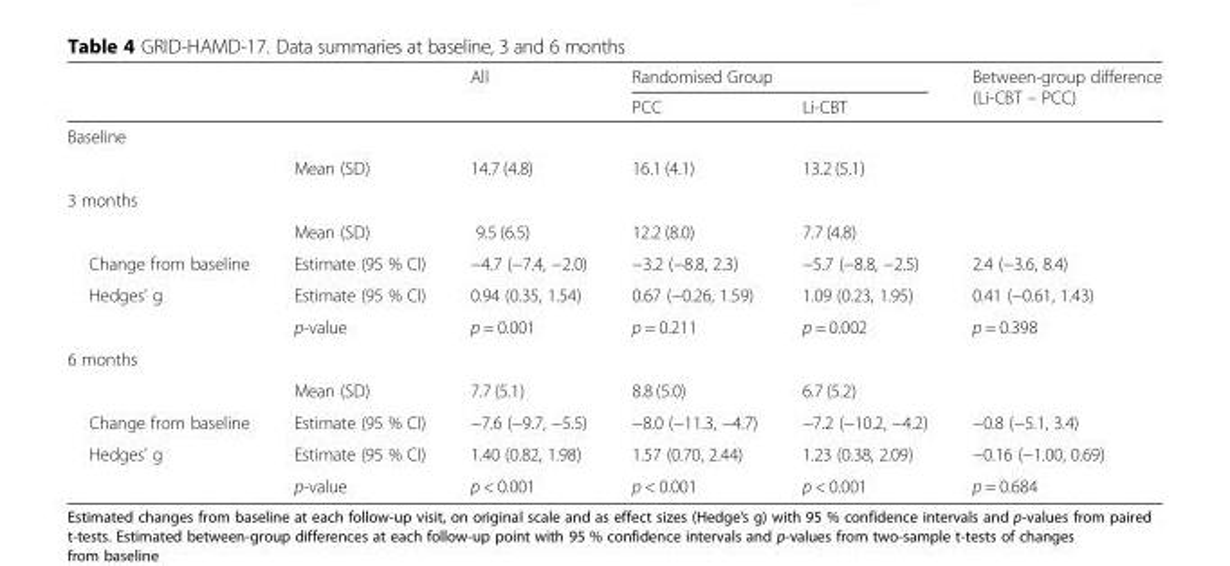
<table><thead><tr><td rowspan="2"></td><td rowspan="2"></td><td rowspan="2">All</td><td colspan="2">Randomised Group</td><td rowspan="2">Between-group difference (Li-CBT – PCC)</td></tr><tr><td>PCC</td><td>Li-CBT</td></tr></thead><tbody><tr><td colspan="6">Baseline</td></tr><tr><td></td><td>Mean (SD)</td><td>14.7 (4.8)</td><td>16.1 (4.1)</td><td>13.2 (5.1)</td><td></td></tr><tr><td colspan="6">3 months</td></tr><tr><td></td><td>Mean (SD)</td><td>9.5 (6.5)</td><td>12.2 (8.0)</td><td>7.7 (4.8)</td><td></td></tr><tr><td>Change from baseline</td><td>Estimate (95 % CI)</td><td>−4.7 (−7.4, −2.0)</td><td>−3.2 (−8.8, 2.3)</td><td>−5.7 (−8.8, −2.5)</td><td>2.4 (−3.6, 8.4)</td></tr><tr><td rowspan="2">Hedges&#x27; g</td><td>Estimate (95 % CI)</td><td>0.94 (0.35, 1.54)</td><td>0.67 (−0.26, 1.59)</td><td>1.09 (0.23, 1.95)</td><td>0.41 (−0.61, 1.43)</td></tr><tr><td>p-value</td><td>p = 0.001</td><td>p = 0.211</td><td>p = 0.002</td><td>p = 0.398</td></tr><tr><td colspan="6">6 months</td></tr><tr><td></td><td>Mean (SD)</td><td>7.7 (5.1)</td><td>8.8 (5.0)</td><td>6.7 (5.2)</td><td></td></tr><tr><td>Change from baseline</td><td>Estimate (95 % CI)</td><td>−7.6 (−9.7, −5.5)</td><td>−8.0 (−11.3, −4.7)</td><td>−7.2 (−10.2, −4.2)</td><td>−0.8 (−5.1, 3.4)</td></tr><tr><td rowspan="2">Hedges&#x27; g</td><td>Estimate (95 % CI)</td><td>1.40 (0.82, 1.98)</td><td>1.57 (0.70, 2.44)</td><td>1.23 (0.38, 2.09)</td><td>−0.16 (−1.00, 0.69)</td></tr><tr><td>p-value</td><td>p &lt; 0.001</td><td>p &lt; 0.001</td><td>p &lt; 0.001</td><td>p = 0.684</td></tr></tbody></table>